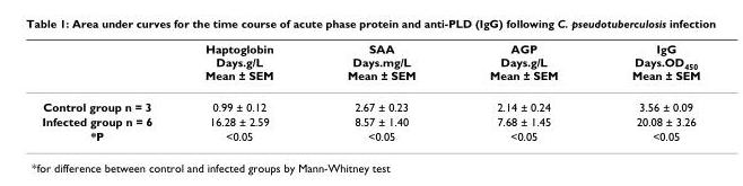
<table><thead><tr><td></td><td>Haptoglobin Days.g/L Mean ± SEM</td><td>SAA Days.mg/L Mean ± SEM</td><td>AGP Days.g/L Mean ± SEM</td><td>IgG Days.OD<sub>450</sub> Mean ± SEM</td></tr></thead><tbody><tr><td>Control group n = 3</td><td>0.99 ± 0.12</td><td>2.67 ± 0.23</td><td>2.14 ± 0.24</td><td>3.56 ± 0.09</td></tr><tr><td>Infected group n = 6</td><td>16.28 ± 2.59</td><td>8.57 ± 1.40</td><td>7.68 ± 1.45</td><td>20.08 ± 3.26</td></tr><tr><td>*P</td><td>&lt;0.05</td><td>&lt;0.05</td><td>&lt;0.05</td><td>&lt;0.05</td></tr></tbody></table>